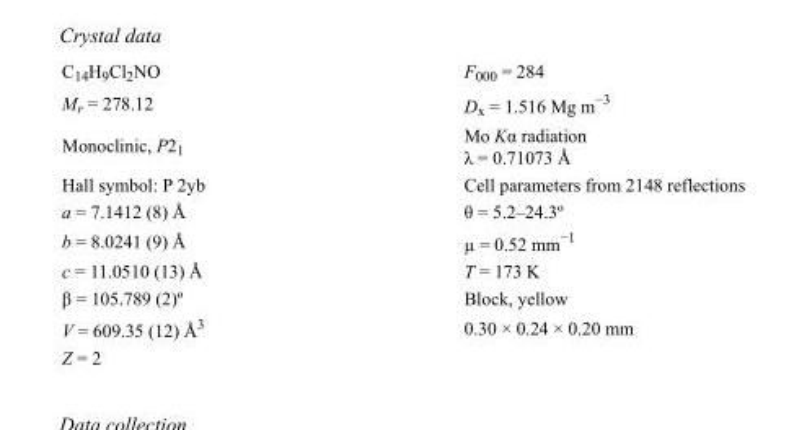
<table><tbody><tr><td>C<sub>14</sub>H<sub>9</sub>Cl<sub>2</sub>NO</td><td>F000 = 284</td></tr><tr><td>M<sub>r</sub> = 278.12</td><td>D<sub>x</sub> = 1.516 Mg m<sup>−3</sup></td></tr><tr><td>Monoclinic, P2<sub>1</sub></td><td>Mo Kα radiation λ = 0.71073 Å</td></tr><tr><td>Hall symbol: P 2yb</td><td>Cell parameters from 2148 reflections</td></tr><tr><td>a = 7.1412 (8) Å</td><td>θ = 5.2–24.3º</td></tr><tr><td>b = 8.0241 (9) Å</td><td>µ = 0.52 mm<sup>−1</sup></td></tr><tr><td>c = 11.0510 (13) Å</td><td>T = 173 K</td></tr><tr><td>β = 105.789 (2)º</td><td>Block, yellow</td></tr><tr><td>V = 609.35 (12) Å<sup>3</sup></td><td>0.30 × 0.24 × 0.20 mm</td></tr><tr><td>Z = 2</td><td></td></tr></tbody></table>